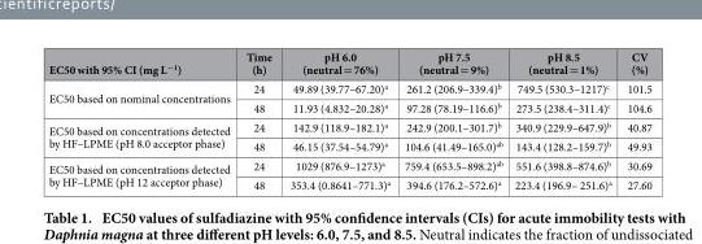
<table><thead><tr><td>EC50 with 95% CI (mg L<sup>−1</sup>)</td><td>Time (h)</td><td>pH 6.0 (neutral = 76%)</td><td>pH 7.5 (neutral = 9%)</td><td>pH 8.5 (neutral = 1%)</td><td>CV (%)</td></tr></thead><tbody><tr><td rowspan="2">EC50 based on nominal concentrations</td><td>24</td><td>49.89 (39.77–67.20)<sup>a</sup></td><td>261.2 (206.9–339.4)<sup>b</sup></td><td>749.5 (530.3–1217)<sup>c</sup></td><td>101.5</td></tr><tr><td>48</td><td>11.93 (4.832–20.28)<sup>a</sup></td><td>97.28 (78.19–116.6)<sup>b</sup></td><td>273.5 (238.4–311.4)<sup>c</sup></td><td>104.6</td></tr><tr><td rowspan="2">EC50 based on concentrations detected by HF–LPME (pH 8.0 acceptor phase)</td><td>24</td><td>142.9 (118.9–182.1)<sup>a</sup></td><td>242.9 (200.1–301.7)<sup>b</sup></td><td>340.9 (229.9–647.9)<sup>b</sup></td><td>40.87</td></tr><tr><td>48</td><td>46.15 (37.54–54.79)<sup>a</sup></td><td>104.6 (41.49–165.0)<sup>ab</sup></td><td>143.4 (128.2–159.7)<sup>b</sup></td><td>49.93</td></tr><tr><td rowspan="2">EC50 based on concentrations detected by HF–LPME (pH 12 acceptor phase)</td><td>24</td><td>1029 (876.9–1273)<sup>a</sup></td><td>759.4 (653.5–898.2)<sup>ab</sup></td><td>551.6 (398.8–874.6)<sup>b</sup></td><td>30.69</td></tr><tr><td>48</td><td>353.4 (0.8641–771.3)<sup>a</sup></td><td>394.6 (176.2–572.6)<sup>a</sup></td><td>223.4 (196.9– 251.6)<sup>a</sup></td><td>27.60</td></tr></tbody></table>